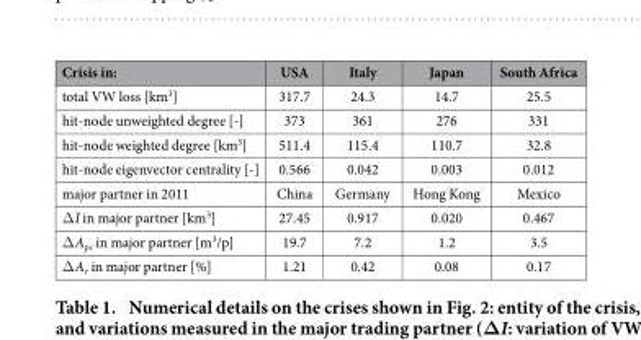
<table><thead><tr><td>Crisis in:</td><td>USA</td><td>Italy</td><td>Japan</td><td>South Africa</td></tr></thead><tbody><tr><td>total VW loss [km<sup>3</sup>]</td><td>317.7</td><td>24.3</td><td>14.7</td><td>25.5</td></tr><tr><td>hit-node unweighted degree [-]</td><td>373</td><td>361</td><td>276</td><td>331</td></tr><tr><td>hit-node weighted degree [km<sup>3</sup>]</td><td>511.4</td><td>115.4</td><td>110.7</td><td>32.8</td></tr><tr><td>hit-node eigenvector centrality [-]</td><td>0.566</td><td>0.042</td><td>0.003</td><td>0.012</td></tr><tr><td>major partner in 2011</td><td>China</td><td>Germany</td><td>Hong Kong</td><td>Mexico</td></tr><tr><td>Δ I in major partner [km<sup>3</sup>]</td><td>27.45</td><td>0.917</td><td>0.020</td><td>0.467</td></tr><tr><td>Δ A<sub>pc</sub> in major partner [m<sup>3</sup>/p]</td><td>19.7</td><td>7.2</td><td>1.2</td><td>3.5</td></tr><tr><td>Δ A<sub>r</sub> in major partner [%]</td><td>1.21</td><td>0.42</td><td>0.08</td><td>0.17</td></tr></tbody></table>